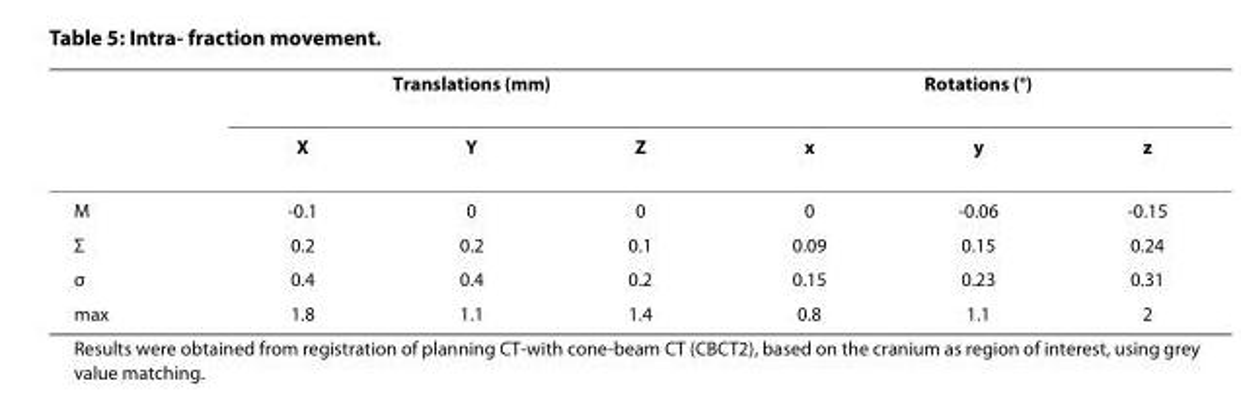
<table><thead><tr><td rowspan="2"></td><td colspan="3">Translations (mm)</td><td colspan="3">Rotations (°)</td></tr><tr><td>X</td><td>Y</td><td>Z</td><td>x</td><td>y</td><td>z</td></tr></thead><tbody><tr><td>M</td><td>-0.1</td><td>0</td><td>0</td><td>0</td><td>-0.06</td><td>-0.15</td></tr><tr><td>Σ</td><td>0.2</td><td>0.2</td><td>0.1</td><td>0.09</td><td>0.15</td><td>0.24</td></tr><tr><td>σ</td><td>0.4</td><td>0.4</td><td>0.2</td><td>0.15</td><td>0.23</td><td>0.31</td></tr><tr><td>max</td><td>1.8</td><td>1.1</td><td>1.4</td><td>0.8</td><td>1.1</td><td>2</td></tr></tbody></table>